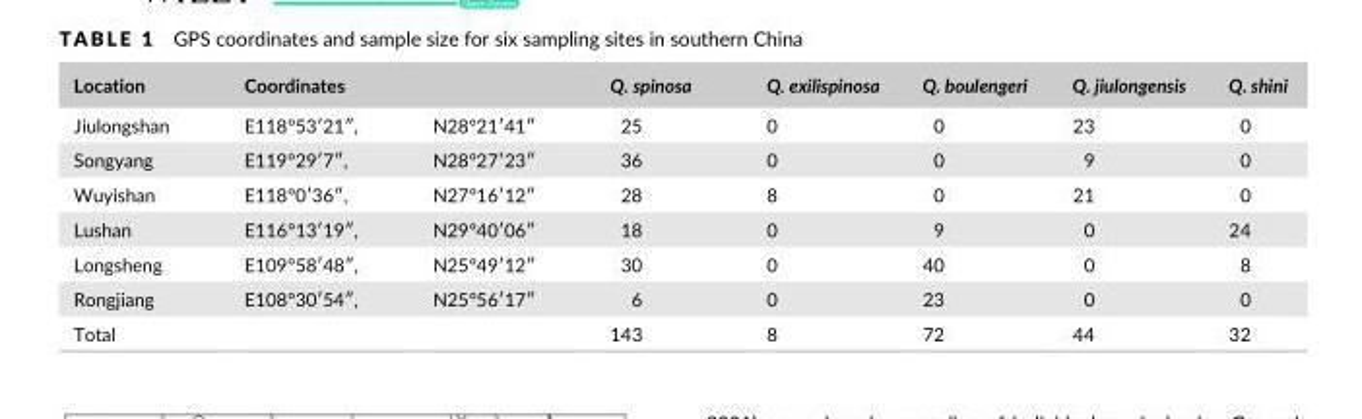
<table><thead><tr><td rowspan="2">Location Jiulongshan</td><td colspan="2">Coordinates</td><td rowspan="2">Q. spinosa 25</td><td rowspan="2">Q. exilispinosa 0</td><td rowspan="2">Q. boulengeri 0</td><td rowspan="2">Q. jiulongensis 23</td><td rowspan="2">Q. shini 0</td></tr><tr><td>E118°53′21″,</td><td>N28°21′41″</td></tr></thead><tbody><tr><td>Songyang</td><td>E119°29′7″,</td><td>N28°27′23″</td><td>36</td><td>0</td><td>0</td><td>9</td><td>0</td></tr><tr><td>Wuyishan</td><td>E118°0′36″,</td><td>N27°16′12″</td><td>28</td><td>8</td><td>0</td><td>21</td><td>0</td></tr><tr><td>Lushan</td><td>E116°13′19″,</td><td>N29°40′06″</td><td>18</td><td>0</td><td>9</td><td>0</td><td>24</td></tr><tr><td>Longsheng</td><td>E109°58′48″,</td><td>N25°49′12″</td><td>30</td><td>0</td><td>40</td><td>0</td><td>8</td></tr><tr><td>Rongjiang</td><td>E108°30′54″,</td><td>N25°56′17″</td><td>6</td><td>0</td><td>23</td><td>0</td><td>0</td></tr><tr><td>Total</td><td></td><td></td><td>143</td><td>8</td><td>72</td><td>44</td><td>32</td></tr></tbody></table>